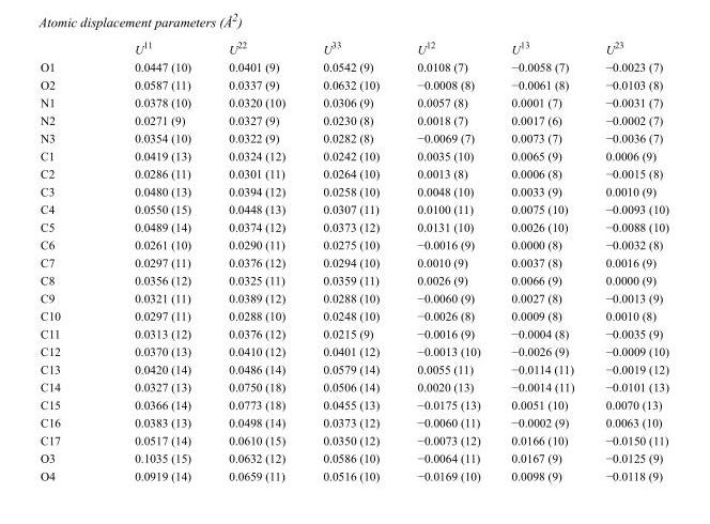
<table><thead><tr><td></td><td>U<sup>11</sup></td><td>U<sup>22</sup></td><td>U<sup>33</sup></td><td>U<sup>12</sup></td><td>U<sup>13</sup></td><td>U<sup>23</sup></td></tr></thead><tbody><tr><td>O1</td><td>0.0447 (10)</td><td>0.0401 (9)</td><td>0.0542 (9)</td><td>0.0108 (7)</td><td>−0.0058 (7)</td><td>−0.0023 (7)</td></tr><tr><td>O2</td><td>0.0587 (11)</td><td>0.0337 (9)</td><td>0.0632 (10)</td><td>−0.0008 (8)</td><td>−0.0061 (8)</td><td>−0.0103 (8)</td></tr><tr><td>N1</td><td>0.0378 (10)</td><td>0.0320 (10)</td><td>0.0306 (9)</td><td>0.0057 (8)</td><td>0.0001 (7)</td><td>−0.0031 (7)</td></tr><tr><td>N2</td><td>0.0271 (9)</td><td>0.0327 (9)</td><td>0.0230 (8)</td><td>0.0018 (7)</td><td>0.0017 (6)</td><td>−0.0002 (7)</td></tr><tr><td>N3</td><td>0.0354 (10)</td><td>0.0322 (9)</td><td>0.0282 (8)</td><td>−0.0069 (7)</td><td>0.0073 (7)</td><td>−0.0036 (7)</td></tr><tr><td>C1</td><td>0.0419 (13)</td><td>0.0324 (12)</td><td>0.0242 (10)</td><td>0.0035 (10)</td><td>0.0065 (9)</td><td>0.0006 (9)</td></tr><tr><td>C2</td><td>0.0286 (11)</td><td>0.0301 (11)</td><td>0.0264 (10)</td><td>0.0013 (8)</td><td>0.0006 (8)</td><td>−0.0015 (8)</td></tr><tr><td>C3</td><td>0.0480 (13)</td><td>0.0394 (12)</td><td>0.0258 (10)</td><td>0.0048 (10)</td><td>0.0033 (9)</td><td>0.0010 (9)</td></tr><tr><td>C4</td><td>0.0550 (15)</td><td>0.0448 (13)</td><td>0.0307 (11)</td><td>0.0100 (11)</td><td>0.0075 (10)</td><td>−0.0093 (10)</td></tr><tr><td>C5</td><td>0.0489 (14)</td><td>0.0374 (12)</td><td>0.0373 (12)</td><td>0.0131 (10)</td><td>0.0026 (10)</td><td>−0.0088 (10)</td></tr><tr><td>C6</td><td>0.0261 (10)</td><td>0.0290 (11)</td><td>0.0275 (10)</td><td>−0.0016 (9)</td><td>0.0000 (8)</td><td>−0.0032 (8)</td></tr><tr><td>C7</td><td>0.0297 (11)</td><td>0.0376 (12)</td><td>0.0294 (10)</td><td>0.0010 (9)</td><td>0.0037 (8)</td><td>0.0016 (9)</td></tr><tr><td>C8</td><td>0.0356 (12)</td><td>0.0325 (11)</td><td>0.0359 (11)</td><td>0.0026 (9)</td><td>0.0066 (9)</td><td>0.0000 (9)</td></tr><tr><td>C9</td><td>0.0321 (11)</td><td>0.0389 (12)</td><td>0.0288 (10)</td><td>−0.0060 (9)</td><td>0.0027 (8)</td><td>−0.0013 (9)</td></tr><tr><td>C10</td><td>0.0297 (11)</td><td>0.0288 (10)</td><td>0.0248 (10)</td><td>−0.0026 (8)</td><td>0.0009 (8)</td><td>0.0010 (8)</td></tr><tr><td>C11</td><td>0.0313 (12)</td><td>0.0376 (12)</td><td>0.0215 (9)</td><td>−0.0016 (9)</td><td>−0.0004 (8)</td><td>−0.0035 (9)</td></tr><tr><td>C12</td><td>0.0370 (13)</td><td>0.0410 (12)</td><td>0.0401 (12)</td><td>−0.0013 (10)</td><td>−0.0026 (9)</td><td>−0.0009 (10)</td></tr><tr><td>C13</td><td>0.0420 (14)</td><td>0.0486 (14)</td><td>0.0579 (14)</td><td>0.0055 (11)</td><td>−0.0114 (11)</td><td>−0.0019 (12)</td></tr><tr><td>C14</td><td>0.0327 (13)</td><td>0.0750 (18)</td><td>0.0506 (14)</td><td>0.0020 (13)</td><td>−0.0014 (11)</td><td>−0.0101 (13)</td></tr><tr><td>C15</td><td>0.0366 (14)</td><td>0.0773 (18)</td><td>0.0455 (13)</td><td>−0.0175 (13)</td><td>0.0051 (10)</td><td>0.0070 (13)</td></tr><tr><td>C16</td><td>0.0383 (13)</td><td>0.0498 (14)</td><td>0.0373 (12)</td><td>−0.0060 (11)</td><td>−0.0002 (9)</td><td>0.0063 (10)</td></tr><tr><td>C17</td><td>0.0517 (14)</td><td>0.0610 (15)</td><td>0.0350 (12)</td><td>−0.0073 (12)</td><td>0.0166 (10)</td><td>−0.0150 (11)</td></tr><tr><td>O3</td><td>0.1035 (15)</td><td>0.0632 (12)</td><td>0.0586 (10)</td><td>−0.0064 (11)</td><td>0.0167 (9)</td><td>−0.0125 (9)</td></tr><tr><td>O4</td><td>0.0919 (14)</td><td>0.0659 (11)</td><td>0.0516 (10)</td><td>−0.0169 (10)</td><td>0.0098 (9)</td><td>−0.0118 (9)</td></tr></tbody></table>